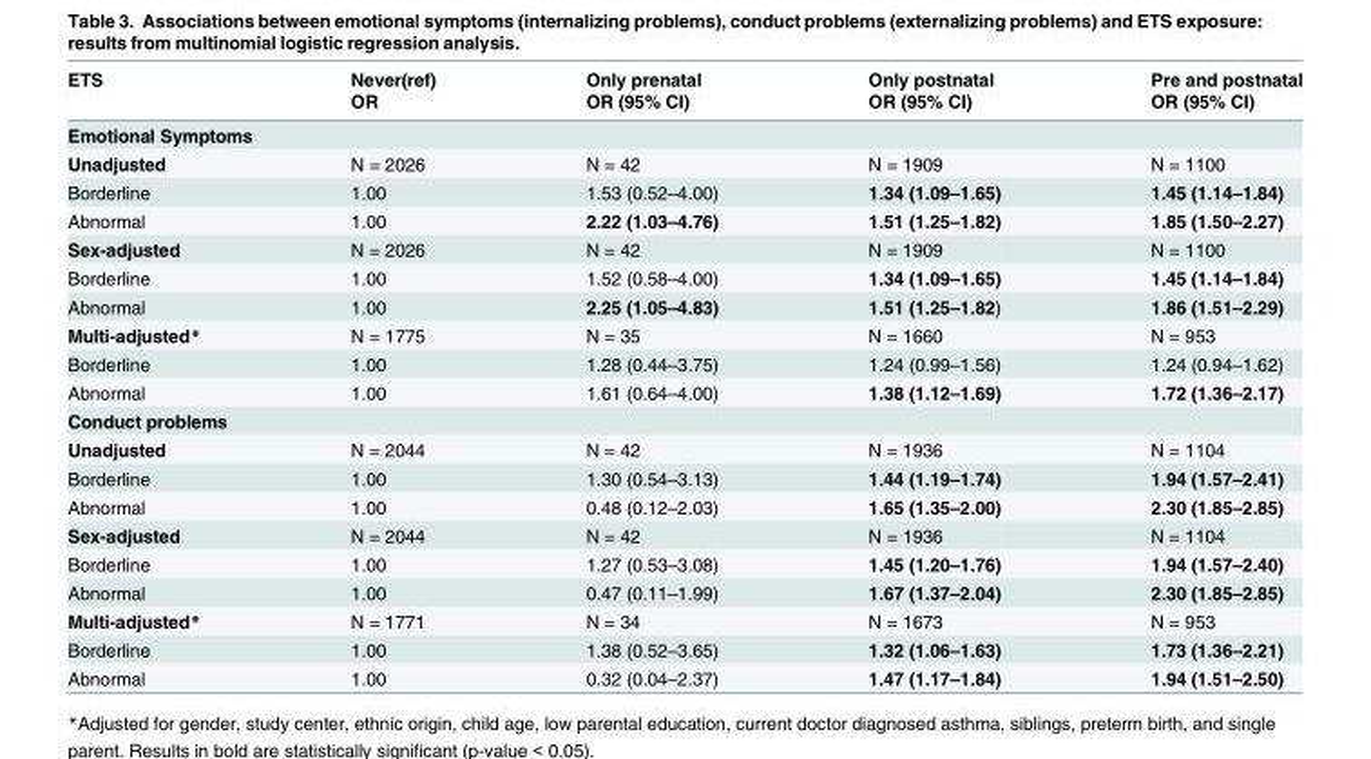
<table><thead><tr><td rowspan="2">ETS</td><td rowspan="2">Never(ref) OR</td><td rowspan="2">Only prenatal OR (95% CI)</td><td rowspan="2">Only postnatal OR (95% CI)</td><td rowspan="2">Pre and postnatal OR (95% CI)</td></tr><tr></tr></thead><tbody><tr><td colspan="5">Emotional Symptoms</td></tr><tr><td>Unadjusted</td><td>N = 2026</td><td>N = 42</td><td>N = 1909</td><td>N = 1100</td></tr><tr><td>Borderline</td><td>1.00</td><td>1.53 (0.52–4.00)</td><td>1.34 (1.09–1.65)</td><td>1.45 (1.14–1.84)</td></tr><tr><td>Abnormal</td><td>1.00</td><td>2.22 (1.03–4.76)</td><td>1.51 (1.25–1.82)</td><td>1.85 (1.50–2.27)</td></tr><tr><td>Sex-adjusted</td><td>N = 2026</td><td>N = 42</td><td>N = 1909</td><td>N = 1100</td></tr><tr><td>Borderline</td><td>1.00</td><td>1.52 (0.58–4.00)</td><td>1.34 (1.09–1.65)</td><td>1.45 (1.14–1.84)</td></tr><tr><td>Abnormal</td><td>1.00</td><td>2.25 (1.05–4.83)</td><td>1.51 (1.25–1.82)</td><td>1.86 (1.51–2.29)</td></tr><tr><td>Multi-adjusted*</td><td>N = 1775</td><td>N = 35</td><td>N = 1660</td><td>N = 953</td></tr><tr><td>Borderline</td><td>1.00</td><td>1.28 (0.44–3.75)</td><td>1.24 (0.99–1.56)</td><td>1.24 (0.94–1.62)</td></tr><tr><td>Abnormal</td><td>1.00</td><td>1.61 (0.64–4.00)</td><td>1.38 (1.12–1.69)</td><td>1.72 (1.36–2.17)</td></tr><tr><td colspan="5">Conduct problems</td></tr><tr><td>Unadjusted</td><td>N = 2044</td><td>N = 42</td><td>N = 1936</td><td>N = 1104</td></tr><tr><td>Borderline</td><td>1.00</td><td>1.30 (0.54–3.13)</td><td>1.44 (1.19–1.74)</td><td>1.94 (1.57–2.41)</td></tr><tr><td>Abnormal</td><td>1.00</td><td>0.48 (0.12–2.03)</td><td>1.65 (1.35–2.00)</td><td>2.30 (1.85–2.85)</td></tr><tr><td>Sex-adjusted</td><td>N = 2044</td><td>N = 42</td><td>N = 1936</td><td>N = 1104</td></tr><tr><td>Borderline</td><td>1.00</td><td>1.27 (0.53–3.08)</td><td>1.45 (1.20–1.76)</td><td>1.94 (1.57–2.40)</td></tr><tr><td>Abnormal</td><td>1.00</td><td>0.47 (0.11–1.99)</td><td>1.67 (1.37–2.04)</td><td>2.30 (1.85–2.85)</td></tr><tr><td>Multi-adjusted*</td><td>N = 1771</td><td>N = 34</td><td>N = 1673</td><td>N = 953</td></tr><tr><td>Borderline</td><td>1.00</td><td>1.38 (0.52–3.65)</td><td>1.32 (1.06–1.63)</td><td>1.73 (1.36–2.21)</td></tr><tr><td>Abnormal</td><td>1.00</td><td>0.32 (0.04–2.37)</td><td>1.47 (1.17–1.84)</td><td>1.94 (1.51–2.50)</td></tr></tbody></table>